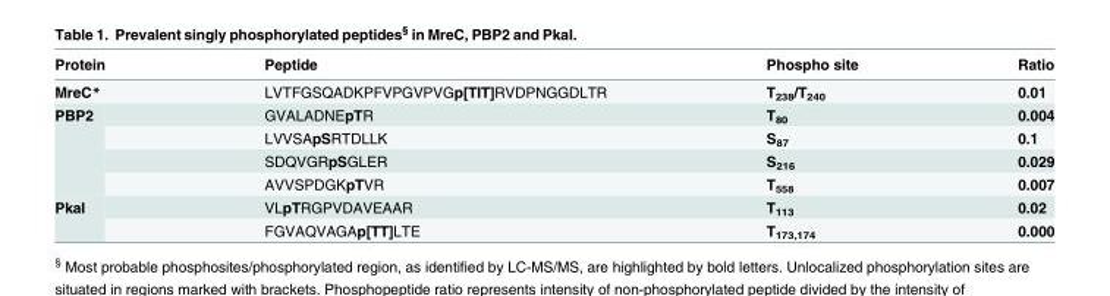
<table><thead><tr><td>Protein</td><td>Peptide</td><td>Phospho site</td><td>Ratio</td></tr></thead><tbody><tr><td>MreC*</td><td>LVTFGSQADKPFVPGVPVGp[TIT]RVDPNGGDLTR</td><td>T<sub>238</sub>/T<sub>240</sub></td><td>0.01</td></tr><tr><td rowspan="4">PBP2</td><td>GVALADNEpTR</td><td>T<sub>80</sub></td><td>0.004</td></tr><tr><td>LVVSApSRTDLLK</td><td>S<sub>87</sub></td><td>0.1</td></tr><tr><td>SDQVGRpSGLER</td><td>S<sub>216</sub></td><td>0.029</td></tr><tr><td>AVVSPDGKpTVR</td><td>T<sub>558</sub></td><td>0.007</td></tr><tr><td rowspan="2">PkaI</td><td>VLpTRGPVDAVEAAR</td><td>T<sub>113</sub></td><td>0.02</td></tr><tr><td>FGVAQVAGAp[TT]LTE</td><td>T<sub>173,174</sub></td><td>0.000</td></tr></tbody></table>